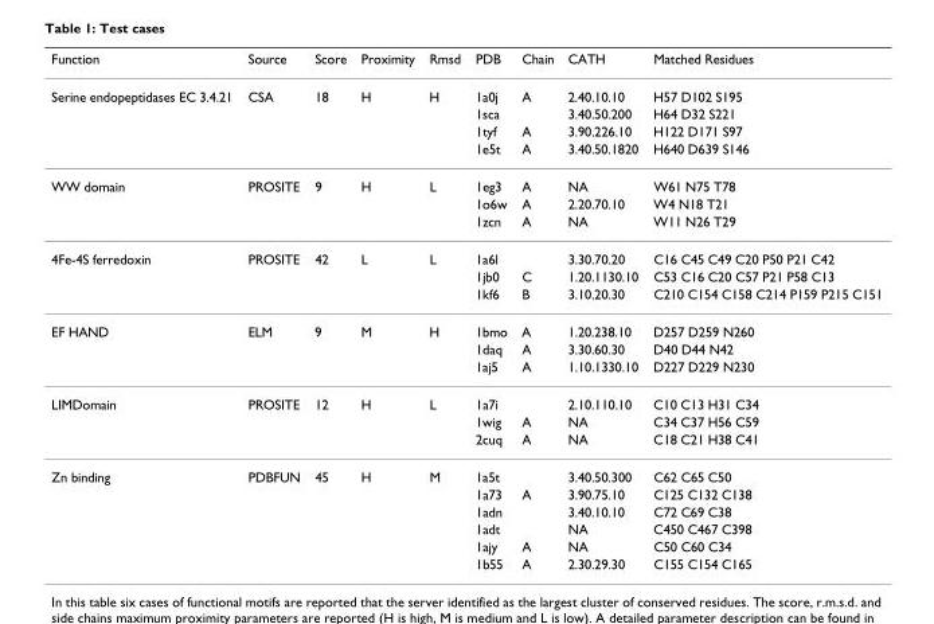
<table><thead><tr><td>Function</td><td>Source</td><td>Score</td><td>Proximity</td><td>Rmsd</td><td>PDB</td><td>Chain</td><td>CATH</td><td>Matched Residues</td></tr></thead><tbody><tr><td rowspan="4">Serine endopeptidases EC 3.4.21</td><td>CSA</td><td>18</td><td>H</td><td>H</td><td>1a0j</td><td>A</td><td>2.40.10.10</td><td>H57 D102 S195</td></tr><tr><td></td><td></td><td></td><td></td><td>1sca</td><td></td><td>3.40.50.200</td><td>H64 D32 S221</td></tr><tr><td></td><td></td><td></td><td></td><td>1tyf</td><td>A</td><td>3.90.226.10</td><td>H122 D171 S97</td></tr><tr><td></td><td></td><td></td><td></td><td>1e5t</td><td>A</td><td>3.40.50.1820</td><td>H640 D639 S146</td></tr><tr><td rowspan="3">WW domain</td><td>PROSITE</td><td>9</td><td>H</td><td>L</td><td>1eg3</td><td>A</td><td>NA</td><td>W61 N75 T78</td></tr><tr><td></td><td></td><td></td><td></td><td>1o6w</td><td>A</td><td>2.20.70.10</td><td>W4 N18 T21</td></tr><tr><td></td><td></td><td></td><td></td><td>1zcn</td><td>A</td><td>NA</td><td>W11 N26 T29</td></tr><tr><td rowspan="3">4Fe-4S ferredoxin</td><td>PROSITE</td><td>42</td><td>L</td><td>L</td><td>1a6l</td><td></td><td>3.30.70.20</td><td>C16 C45 C49 C20 P50 P21 C42</td></tr><tr><td></td><td></td><td></td><td></td><td>1jb0</td><td>C</td><td>1.20.1130.10</td><td>C53 C16 C20 C57 P21 P58 C13</td></tr><tr><td></td><td></td><td></td><td></td><td>1kf6</td><td>B</td><td>3.10.20.30</td><td>C210 C154 C158 C214 P159 P215 C151</td></tr><tr><td rowspan="3">EF HAND</td><td>ELM</td><td>9</td><td>M</td><td>H</td><td>1bmo</td><td>A</td><td>1.20.238.10</td><td>D257 D259 N260</td></tr><tr><td></td><td></td><td></td><td></td><td>1daq</td><td>A</td><td>3.30.60.30</td><td>D40 D44 N42</td></tr><tr><td></td><td></td><td></td><td></td><td>1aj5</td><td>A</td><td>1.10.1330.10</td><td>D227 D229 N230</td></tr><tr><td rowspan="3">LIMDomain</td><td>PROSITE</td><td>12</td><td>H</td><td>L</td><td>1a7i</td><td></td><td>2.10.110.10</td><td>C10 C13 H31 C34</td></tr><tr><td></td><td></td><td></td><td></td><td>1wig</td><td>A</td><td>NA</td><td>C34 C37 H56 C59</td></tr><tr><td></td><td></td><td></td><td></td><td>2cuq</td><td>A</td><td>NA</td><td>C18 C21 H38 C41</td></tr><tr><td rowspan="6">Zn binding</td><td>PDBFUN</td><td>45</td><td>H</td><td>M</td><td>1a5t</td><td></td><td>3.40.50.300</td><td>C62 C65 C50</td></tr><tr><td></td><td></td><td></td><td></td><td>1a73</td><td>A</td><td>3.90.75.10</td><td>C125 C132 C138</td></tr><tr><td></td><td></td><td></td><td></td><td>1adn</td><td></td><td>3.40.10.10</td><td>C72 C69 C38</td></tr><tr><td></td><td></td><td></td><td></td><td>1adt</td><td></td><td>NA</td><td>C450 C467 C398</td></tr><tr><td></td><td></td><td></td><td></td><td>1ajy</td><td>A</td><td>NA</td><td>C50 C60 C34</td></tr><tr><td></td><td></td><td></td><td></td><td>1b55</td><td>A</td><td>2.30.29.30</td><td>C155 C154 C165</td></tr></tbody></table>